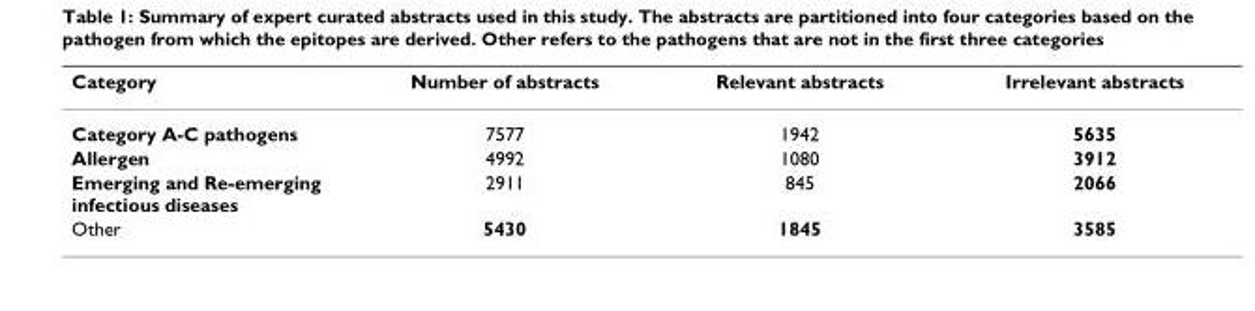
<table><thead><tr><td>Category</td><td>Number of abstracts</td><td>Relevant abstracts</td><td>Irrelevant abstracts</td></tr></thead><tbody><tr><td>Category A-C pathogens</td><td>7577</td><td>1942</td><td>5635</td></tr><tr><td>Allergen</td><td>4992</td><td>1080</td><td>3912</td></tr><tr><td>Emerging and Re-emerging infectious diseases</td><td>2911</td><td>845</td><td>2066</td></tr><tr><td>Other</td><td>5430</td><td>1845</td><td>3585</td></tr></tbody></table>